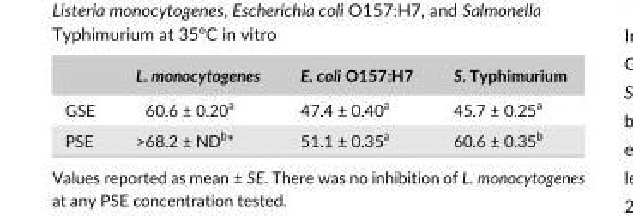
<table><thead><tr><td></td><td>L. monocytogenes</td><td>E. coli O157:H7</td><td>S. Typhimurium</td></tr></thead><tbody><tr><td>GSE</td><td>60.6 ± 0.20<sup>a</sup></td><td>47.4 ± 0.40<sup>a</sup></td><td>45.7 ± 0.25<sup>a</sup></td></tr><tr><td>PSE</td><td>&gt;68.2 ± ND<sup>b</sup>*</td><td>51.1 ± 0.35<sup>a</sup></td><td>60.6 ± 0.35<sup>b</sup></td></tr></tbody></table>